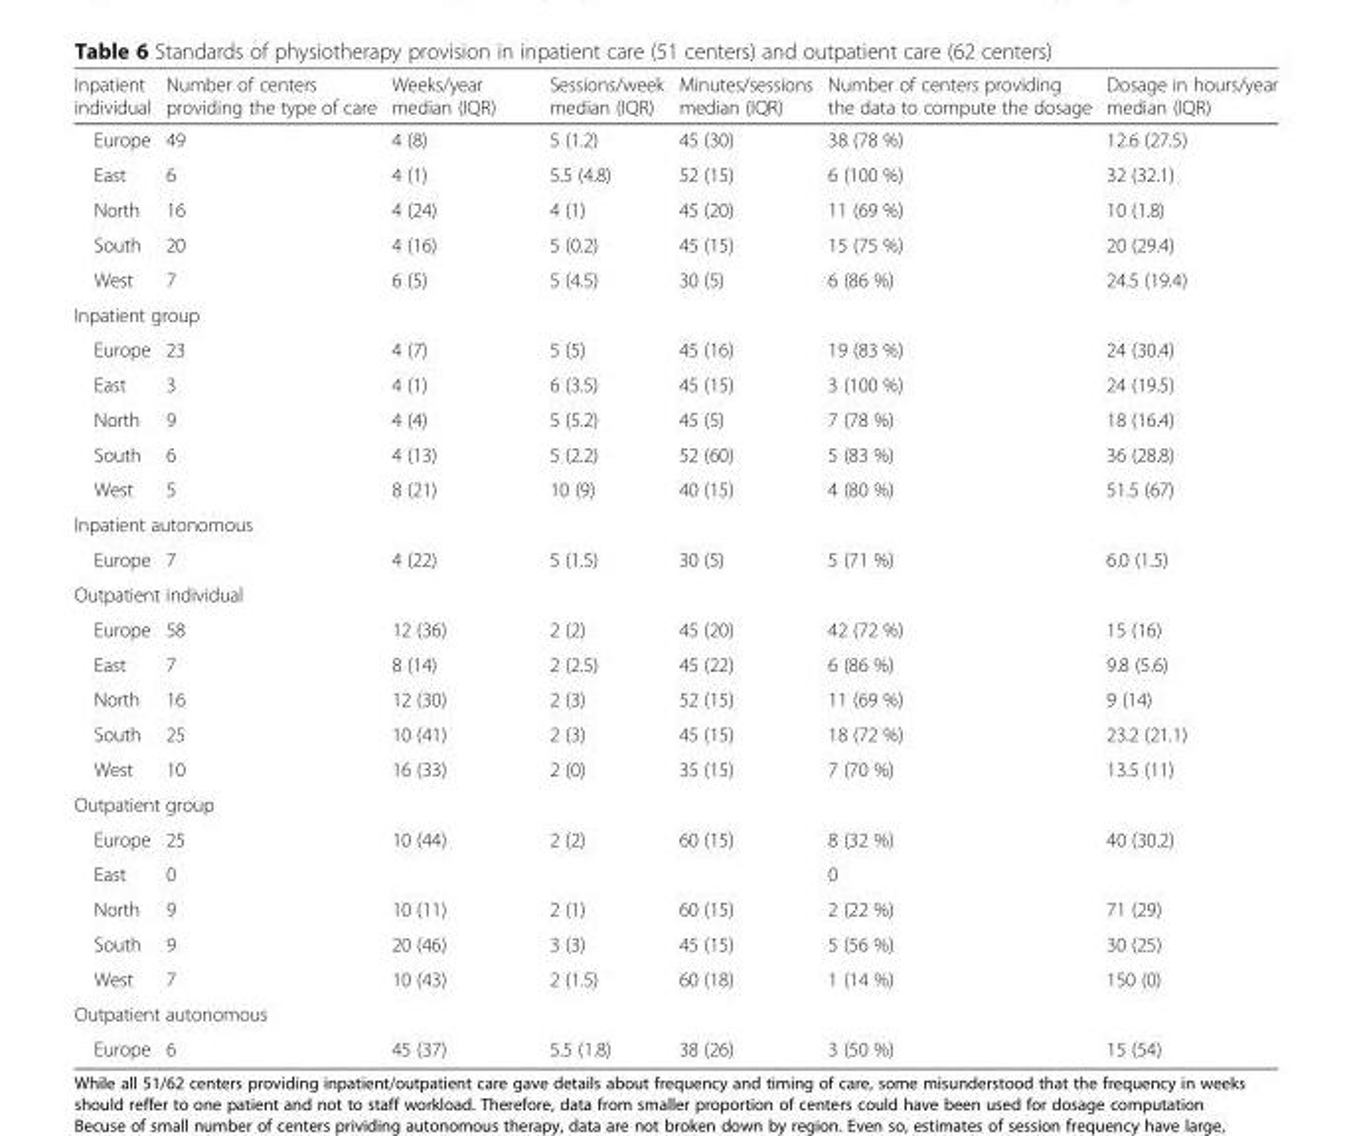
<table><thead><tr><td>Inpatient individual</td><td>Number of centers providing the type of care</td><td>Weeks/year median (IQR)</td><td>Sessions/week median (IQR)</td><td>Minutes/sessions median (IQR)</td><td>Number of centers providing the data to compute the dosage</td><td>Dosage in hours/year median (IQR)</td></tr></thead><tbody><tr><td>Europe</td><td>49</td><td>4 (8)</td><td>5 (1.2)</td><td>45 (30)</td><td>38 (78 %)</td><td>12.6 (27.5)</td></tr><tr><td>East</td><td>6</td><td>4 (1)</td><td>5.5 (4.8)</td><td>52 (15)</td><td>6 (100 %)</td><td>32 (32.1)</td></tr><tr><td>North</td><td>16</td><td>4 (24)</td><td>4 (1)</td><td>45 (20)</td><td>11 (69 %)</td><td>10 (1.8)</td></tr><tr><td>South</td><td>20</td><td>4 (16)</td><td>5 (0.2)</td><td>45 (15)</td><td>15 (75 %)</td><td>20 (29.4)</td></tr><tr><td>West</td><td>7</td><td>6 (5)</td><td>5 (4.5)</td><td>30 (5)</td><td>6 (86 %)</td><td>24.5 (19.4)</td></tr><tr><td colspan="7">Inpatient group</td></tr><tr><td>Europe</td><td>23</td><td>4 (7)</td><td>5 (5)</td><td>45 (16)</td><td>19 (83 %)</td><td>24 (30.4)</td></tr><tr><td>East</td><td>3</td><td>4 (1)</td><td>6 (3.5)</td><td>45 (15)</td><td>3 (100 %)</td><td>24 (19.5)</td></tr><tr><td>North</td><td>9</td><td>4 (4)</td><td>5 (5.2)</td><td>45 (5)</td><td>7 (78 %)</td><td>18 (16.4)</td></tr><tr><td>South</td><td>6</td><td>4 (13)</td><td>5 (2.2)</td><td>52 (60)</td><td>5 (83 %)</td><td>36 (28.8)</td></tr><tr><td>West</td><td>5</td><td>8 (21)</td><td>10 (9)</td><td>40 (15)</td><td>4 (80 %)</td><td>51.5 (67)</td></tr><tr><td colspan="7">Inpatient autonomous</td></tr><tr><td>Europe</td><td>7</td><td>4 (22)</td><td>5 (1.5)</td><td>30 (5)</td><td>5 (71 %)</td><td>6.0 (1.5)</td></tr><tr><td colspan="7">Outpatient individual</td></tr><tr><td>Europe</td><td>58</td><td>12 (36)</td><td>2 (2)</td><td>45 (20)</td><td>42 (72 %)</td><td>15 (16)</td></tr><tr><td>East</td><td>7</td><td>8 (14)</td><td>2 (2.5)</td><td>45 (22)</td><td>6 (86 %)</td><td>9.8 (5.6)</td></tr><tr><td>North</td><td>16</td><td>12 (30)</td><td>2 (3)</td><td>52 (15)</td><td>11 (69 %)</td><td>9 (14)</td></tr><tr><td>South</td><td>25</td><td>10 (41)</td><td>2 (3)</td><td>45 (15)</td><td>18 (72 %)</td><td>23.2 (21.1)</td></tr><tr><td>West</td><td>10</td><td>16 (33)</td><td>2 (0)</td><td>35 (15)</td><td>7 (70 %)</td><td>13.5 (11)</td></tr><tr><td colspan="7">Outpatient group</td></tr><tr><td>Europe</td><td>25</td><td>10 (44)</td><td>2 (2)</td><td>60 (15)</td><td>8 (32 %)</td><td>40 (30.2)</td></tr><tr><td>East</td><td>0</td><td></td><td></td><td></td><td>0</td><td></td></tr><tr><td>North</td><td>9</td><td>10 (11)</td><td>2 (1)</td><td>60 (15)</td><td>2 (22 %)</td><td>71 (29)</td></tr><tr><td>South</td><td>9</td><td>20 (46)</td><td>3 (3)</td><td>45 (15)</td><td>5 (56 %)</td><td>30 (25)</td></tr><tr><td>West</td><td>7</td><td>10 (43)</td><td>2 (1.5)</td><td>60 (18)</td><td>1 (14 %)</td><td>150 (0)</td></tr><tr><td colspan="7">Outpatient autonomous</td></tr><tr><td>Europe</td><td>6</td><td>45 (37)</td><td>5.5 (1.8)</td><td>38 (26)</td><td>3 (50 %)</td><td>15 (54)</td></tr></tbody></table>